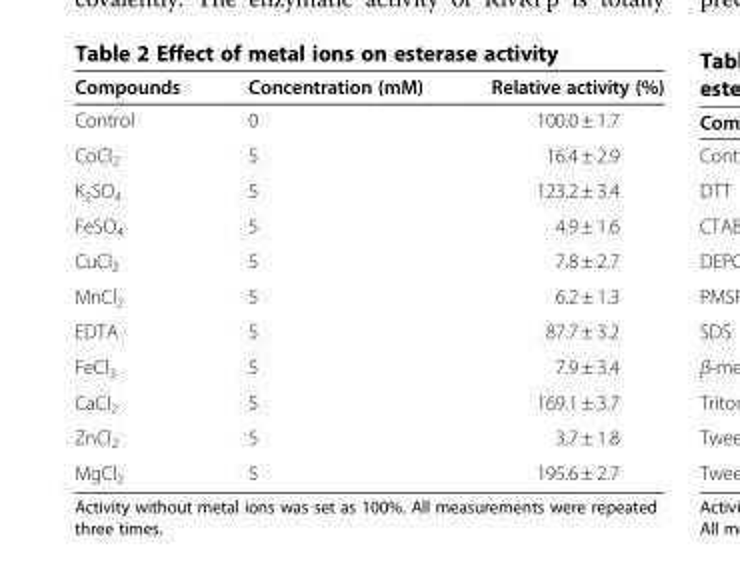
<table><thead><tr><td>Compounds</td><td>Concentration (mM)</td><td>Relative activity (%)</td></tr></thead><tbody><tr><td>Control</td><td>0</td><td>100.0 ± 1.7</td></tr><tr><td>CoCl<sub>2</sub></td><td>5</td><td>16.4 ± 2.9</td></tr><tr><td>K<sub>2</sub>SO<sub>4</sub></td><td>5</td><td>123.2 ± 3.4</td></tr><tr><td>FeSO<sub>4</sub></td><td>5</td><td>4.9 ± 1.6</td></tr><tr><td>CuCl<sub>2</sub></td><td>5</td><td>7.8 ± 2.7</td></tr><tr><td>MnCl<sub>2</sub></td><td>5</td><td>6.2 ± 1.3</td></tr><tr><td>EDTA</td><td>5</td><td>87.7 ± 3.2</td></tr><tr><td>FeCl<sub>3</sub></td><td>5</td><td>7.9 ± 3.4</td></tr><tr><td>CaCl<sub>2</sub></td><td>5</td><td>169.1 ± 3.7</td></tr><tr><td>ZnCl<sub>2</sub></td><td>5</td><td>3.7 ± 1.8</td></tr><tr><td>MgCl<sub>2</sub></td><td>5</td><td>195.6 ± 2.7</td></tr></tbody></table>